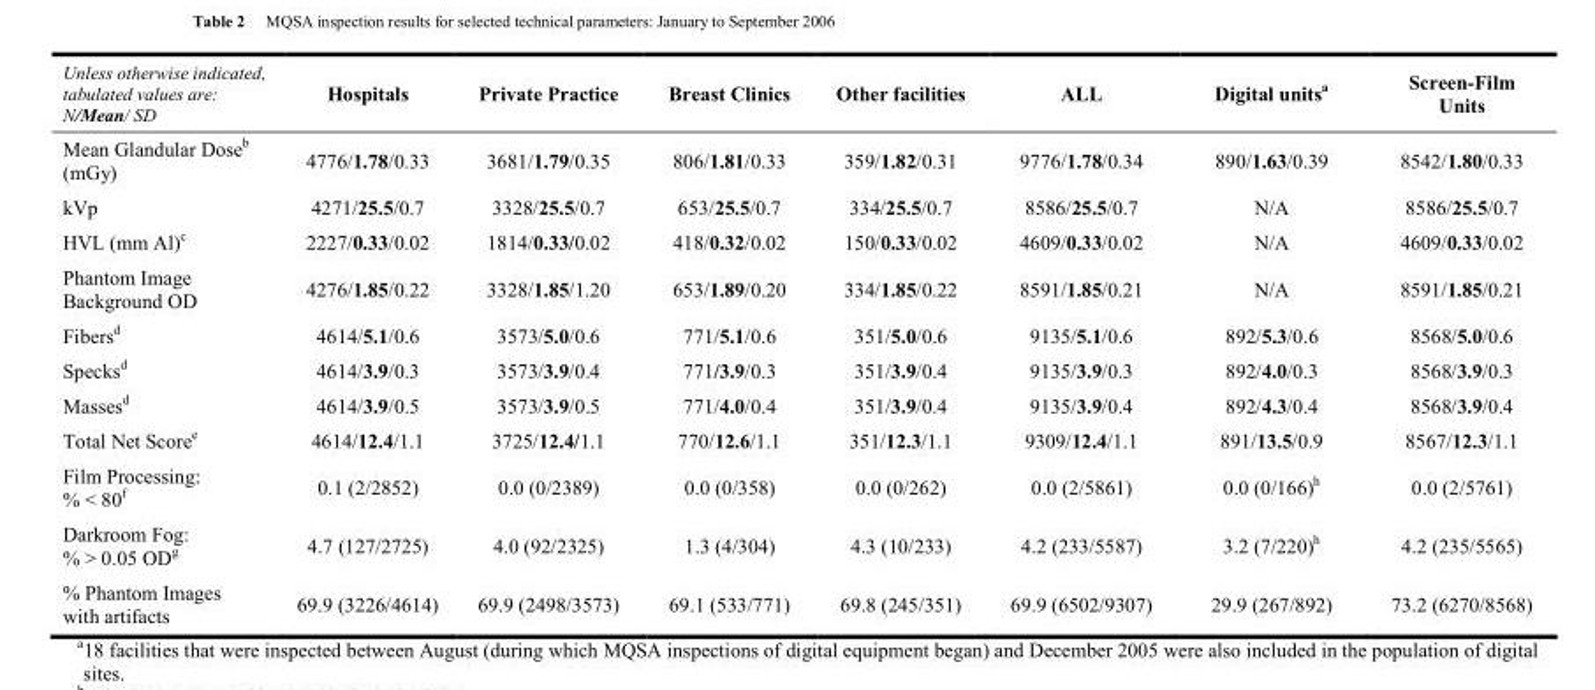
<table><thead><tr><td>Unless otherwise indicated, tabulated values are: N/Mean/ SD</td><td>Hospitals</td><td>Private Practice</td><td>Breast Clinics</td><td>Other facilities</td><td>ALL</td><td>Digital units<sup>a</sup></td><td>Screen-Film Units</td></tr></thead><tbody><tr><td>Mean Glandular Dose<sup>b</sup> (mGy)</td><td>4776/1.78/0.33</td><td>3681/1.79/0.35</td><td>806/1.81/0.33</td><td>359/1.82/0.31</td><td>9776/1.78/0.34</td><td>890/1.63/0.39</td><td>8542/1.80/0.33</td></tr><tr><td>kVp</td><td>4271/25.5/0.7</td><td>3328/25.5/0.7</td><td>653/25.5/0.7</td><td>334/25.5/0.7</td><td>8586/25.5/0.7</td><td>N/A</td><td>8586/25.5/0.7</td></tr><tr><td>HVL (mm Al)<sup>c</sup></td><td>2227/0.33/0.02</td><td>1814/0.33/0.02</td><td>418/0.32/0.02</td><td>150/0.33/0.02</td><td>4609/0.33/0.02</td><td>N/A</td><td>4609/0.33/0.02</td></tr><tr><td>Phantom Image Background OD</td><td>4276/1.85/0.22</td><td>3328/1.85/1.20</td><td>653/1.89/0.20</td><td>334/1.85/0.22</td><td>8591/1.85/0.21</td><td>N/A</td><td>8591/1.85/0.21</td></tr><tr><td>Fibers<sup>d</sup></td><td>4614/5.1/0.6</td><td>3573/5.0/0.6</td><td>771/5.1/0.6</td><td>351/5.0/0.6</td><td>9135/5.1/0.6</td><td>892/5.3/0.6</td><td>8568/5.0/0.6</td></tr><tr><td>Specks<sup>d</sup></td><td>4614/3.9/0.3</td><td>3573/3.9/0.4</td><td>771/3.9/0.3</td><td>351/3.9/0.4</td><td>9135/3.9/0.3</td><td>892/4.0/0.3</td><td>8568/3.9/0.3</td></tr><tr><td>Masses<sup>d</sup></td><td>4614/3.9/0.5</td><td>3573/3.9/0.5</td><td>771/4.0/0.4</td><td>351/3.9/0.4</td><td>9135/3.9/0.4</td><td>892/4.3/0.4</td><td>8568/3.9/0.4</td></tr><tr><td>Total Net Score<sup>e</sup></td><td>4614/12.4/1.1</td><td>3725/12.4/1.1</td><td>770/12.6/1.1</td><td>351/12.3/1.1</td><td>9309/12.4/1.1</td><td>891/13.5/0.9</td><td>8567/12.3/1.1</td></tr><tr><td>Film Processing: % &lt; 80<sup>f</sup></td><td>0.1 (2/2852)</td><td>0.0 (0/2389)</td><td>0.0 (0/358)</td><td>0.0 (0/262)</td><td>0.0 (2/5861)</td><td>0.0 (0/166)<sup>h</sup></td><td>0.0 (2/5761)</td></tr><tr><td>Darkroom Fog: % &gt; 0.05 OD<sup>g</sup></td><td>4.7 (127/2725)</td><td>4.0 (92/2325)</td><td>1.3 (4/304)</td><td>4.3 (10/233)</td><td>4.2 (233/5587)</td><td>3.2 (7/220)<sup>h</sup></td><td>4.2 (235/5565)</td></tr><tr><td>% Phantom Images with artifacts</td><td>69.9 (3226/4614)</td><td>69.9 (2498/3573)</td><td>69.1 (533/771)</td><td>69.8 (245/351)</td><td>69.9 (6502/9307)</td><td>29.9 (267/892)</td><td>73.2 (6270/8568)</td></tr></tbody></table>